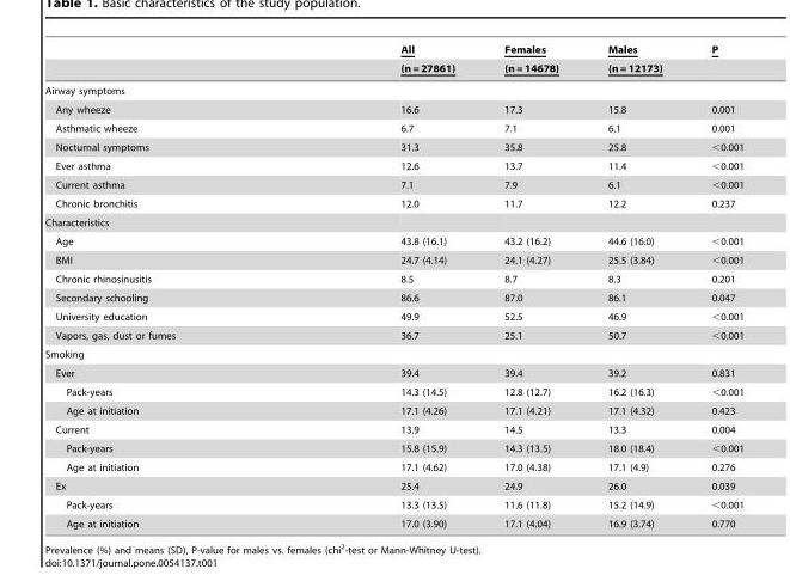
<table><thead><tr><td rowspan="2"></td><td rowspan="2">All (n = 27861)</td><td rowspan="2">Females (n = 14678)</td><td rowspan="2">Males (n = 12173)</td><td rowspan="2">P</td></tr><tr></tr></thead><tbody><tr><td colspan="5">Airway symptoms</td></tr><tr><td>Any wheeze</td><td>16.6</td><td>17.3</td><td>15.8</td><td>0.001</td></tr><tr><td>Asthmatic wheeze</td><td>6.7</td><td>7.1</td><td>6.1</td><td>0.001</td></tr><tr><td>Nocturnal symptoms</td><td>31.3</td><td>35.8</td><td>25.8</td><td>&lt;0.001</td></tr><tr><td>Ever asthma</td><td>12.6</td><td>13.7</td><td>11.4</td><td>&lt;0.001</td></tr><tr><td>Current asthma</td><td>7.1</td><td>7.9</td><td>6.1</td><td>&lt;0.001</td></tr><tr><td>Chronic bronchitis</td><td>12.0</td><td>11.7</td><td>12.2</td><td>0.237</td></tr><tr><td colspan="5">Characteristics</td></tr><tr><td>Age</td><td>43.8 (16.1)</td><td>43.2 (16.2)</td><td>44.6 (16.0)</td><td>&lt;0.001</td></tr><tr><td>BMI</td><td>24.7 (4.14)</td><td>24.1 (4.27)</td><td>25.5 (3.84)</td><td>&lt;0.001</td></tr><tr><td>Chronic rhinosinusitis</td><td>8.5</td><td>8.7</td><td>8.3</td><td>0.201</td></tr><tr><td>Secondary schooling</td><td>86.6</td><td>87.0</td><td>86.1</td><td>0.047</td></tr><tr><td>University education</td><td>49.9</td><td>52.5</td><td>46.9</td><td>&lt;0.001</td></tr><tr><td>Vapors, gas, dust or fumes</td><td>36.7</td><td>25.1</td><td>50.7</td><td>&lt;0.001</td></tr><tr><td colspan="5">Smoking</td></tr><tr><td>Ever</td><td>39.4</td><td>39.4</td><td>39.2</td><td>0.831</td></tr><tr><td>Pack-years</td><td>14.3 (14.5)</td><td>12.8 (12.7)</td><td>16.2 (16.3)</td><td>&lt;0.001</td></tr><tr><td>Age at initiation</td><td>17.1 (4.26)</td><td>17.1 (4.21)</td><td>17.1 (4.32)</td><td>0.423</td></tr><tr><td>Current</td><td>13.9</td><td>14.5</td><td>13.3</td><td>0.004</td></tr><tr><td>Pack-years</td><td>15.8 (15.9)</td><td>14.3 (13.5)</td><td>18.0 (18.4)</td><td>&lt;0.001</td></tr><tr><td>Age at initiation</td><td>17.1 (4.62)</td><td>17.0 (4.38)</td><td>17.1 (4.9)</td><td>0.276</td></tr><tr><td>Ex</td><td>25.4</td><td>24.9</td><td>26.0</td><td>0.039</td></tr><tr><td>Pack-years</td><td>13.3 (13.5)</td><td>11.6 (11.8)</td><td>15.2 (14.9)</td><td>&lt;0.001</td></tr><tr><td>Age at initiation</td><td>17.0 (3.90)</td><td>17.1 (4.04)</td><td>16.9 (3.74)</td><td>0.770</td></tr></tbody></table>